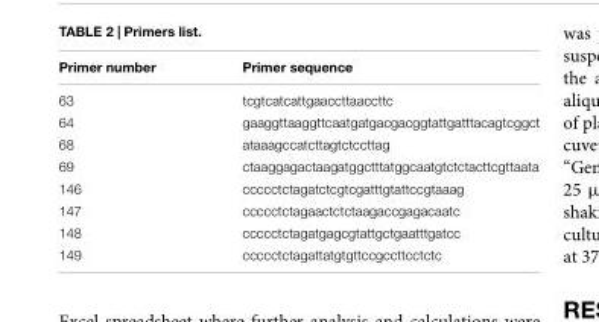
<table><thead><tr><td>Primer number</td><td>Primer sequence</td></tr></thead><tbody><tr><td>63</td><td>tcgtcatcattgaaccttaaccttc</td></tr><tr><td>64</td><td>gaaggttaaggttcaatgatgacgacggtattgatttacagtcggct</td></tr><tr><td>68</td><td>ataaagccatcttagtctccttag</td></tr><tr><td>69</td><td>ctaaggagactaagatggctttatggcaatgtctctacttcgttaata</td></tr><tr><td>146</td><td>ccccctctagatctcgtcgatttgtattccgtaaag</td></tr><tr><td>147</td><td>ccccctctagaactctctaagaccgagacaatc</td></tr><tr><td>148</td><td>ccccctctagatgagcgtattgctgaatttgatcc</td></tr><tr><td>149</td><td>ccccctctagattatgtgttccgccttcctctc</td></tr></tbody></table>